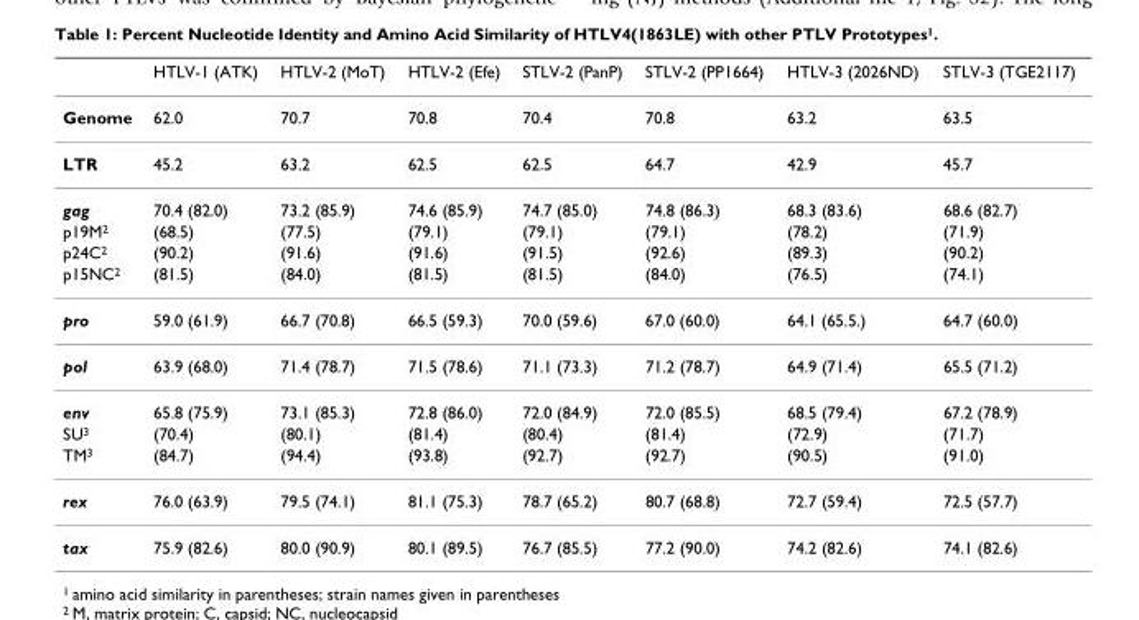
<table><thead><tr><td></td><td>HTLV-1 (ATK)</td><td>HTLV-2 (MoT)</td><td>HTLV-2 (Efe)</td><td>STLV-2 (PanP)</td><td>STLV-2 (PP1664)</td><td>HTLV-3 (2026ND)</td><td>STLV-3 (TGE2117)</td></tr></thead><tbody><tr><td>Genome</td><td>62.0</td><td>70.7</td><td>70.8</td><td>70.4</td><td>70.8</td><td>63.2</td><td>63.5</td></tr><tr><td>LTR</td><td>45.2</td><td>63.2</td><td>62.5</td><td>62.5</td><td>64.7</td><td>42.9</td><td>45.7</td></tr><tr><td>gag</td><td>70.4 (82.0)</td><td>73.2 (85.9)</td><td>74.6 (85.9)</td><td>74.7 (85.0)</td><td>74.8 (86.3)</td><td>68.3 (83.6)</td><td>68.6 (82.7)</td></tr><tr><td>p19M<sup>2</sup></td><td>(68.5)</td><td>(77.5)</td><td>(79.1)</td><td>(79.1)</td><td>(79.1)</td><td>(78.2)</td><td>(71.9)</td></tr><tr><td>p24C<sup>2</sup></td><td>(90.2)</td><td>(91.6)</td><td>(91.6)</td><td>(91.5)</td><td>(92.6)</td><td>(89.3)</td><td>(90.2)</td></tr><tr><td>p15NC<sup>2</sup></td><td>(81.5)</td><td>(84.0)</td><td>(81.5)</td><td>(81.5)</td><td>(84.0)</td><td>(76.5)</td><td>(74.1)</td></tr><tr><td>pro</td><td>59.0 (61.9)</td><td>66.7 (70.8)</td><td>66.5 (59.3)</td><td>70.0 (59.6)</td><td>67.0 (60.0)</td><td>64.1 (65.5.)</td><td>64.7 (60.0)</td></tr><tr><td>pol</td><td>63.9 (68.0)</td><td>71.4 (78.7)</td><td>71.5 (78.6)</td><td>71.1 (73.3)</td><td>71.2 (78.7)</td><td>64.9 (71.4)</td><td>65.5 (71.2)</td></tr><tr><td>env</td><td>65.8 (75.9)</td><td>73.1 (85.3)</td><td>72.8 (86.0)</td><td>72.0 (84.9)</td><td>72.0 (85.5)</td><td>68.5 (79.4)</td><td>67.2 (78.9)</td></tr><tr><td>SU<sup>3</sup></td><td>(70.4)</td><td>(80.1)</td><td>(81.4)</td><td>(80.4)</td><td>(81.4)</td><td>(72.9)</td><td>(71.7)</td></tr><tr><td>TM<sup>3</sup></td><td>(84.7)</td><td>(94.4)</td><td>(93.8)</td><td>(92.7)</td><td>(92.7)</td><td>(90.5)</td><td>(91.0)</td></tr><tr><td>rex</td><td>76.0 (63.9)</td><td>79.5 (74.1)</td><td>81.1 (75.3)</td><td>78.7 (65.2)</td><td>80.7 (68.8)</td><td>72.7 (59.4)</td><td>72.5 (57.7)</td></tr><tr><td>tax</td><td>75.9 (82.6)</td><td>80.0 (90.9)</td><td>80.1 (89.5)</td><td>76.7 (85.5)</td><td>77.2 (90.0)</td><td>74.2 (82.6)</td><td>74.1 (82.6)</td></tr></tbody></table>